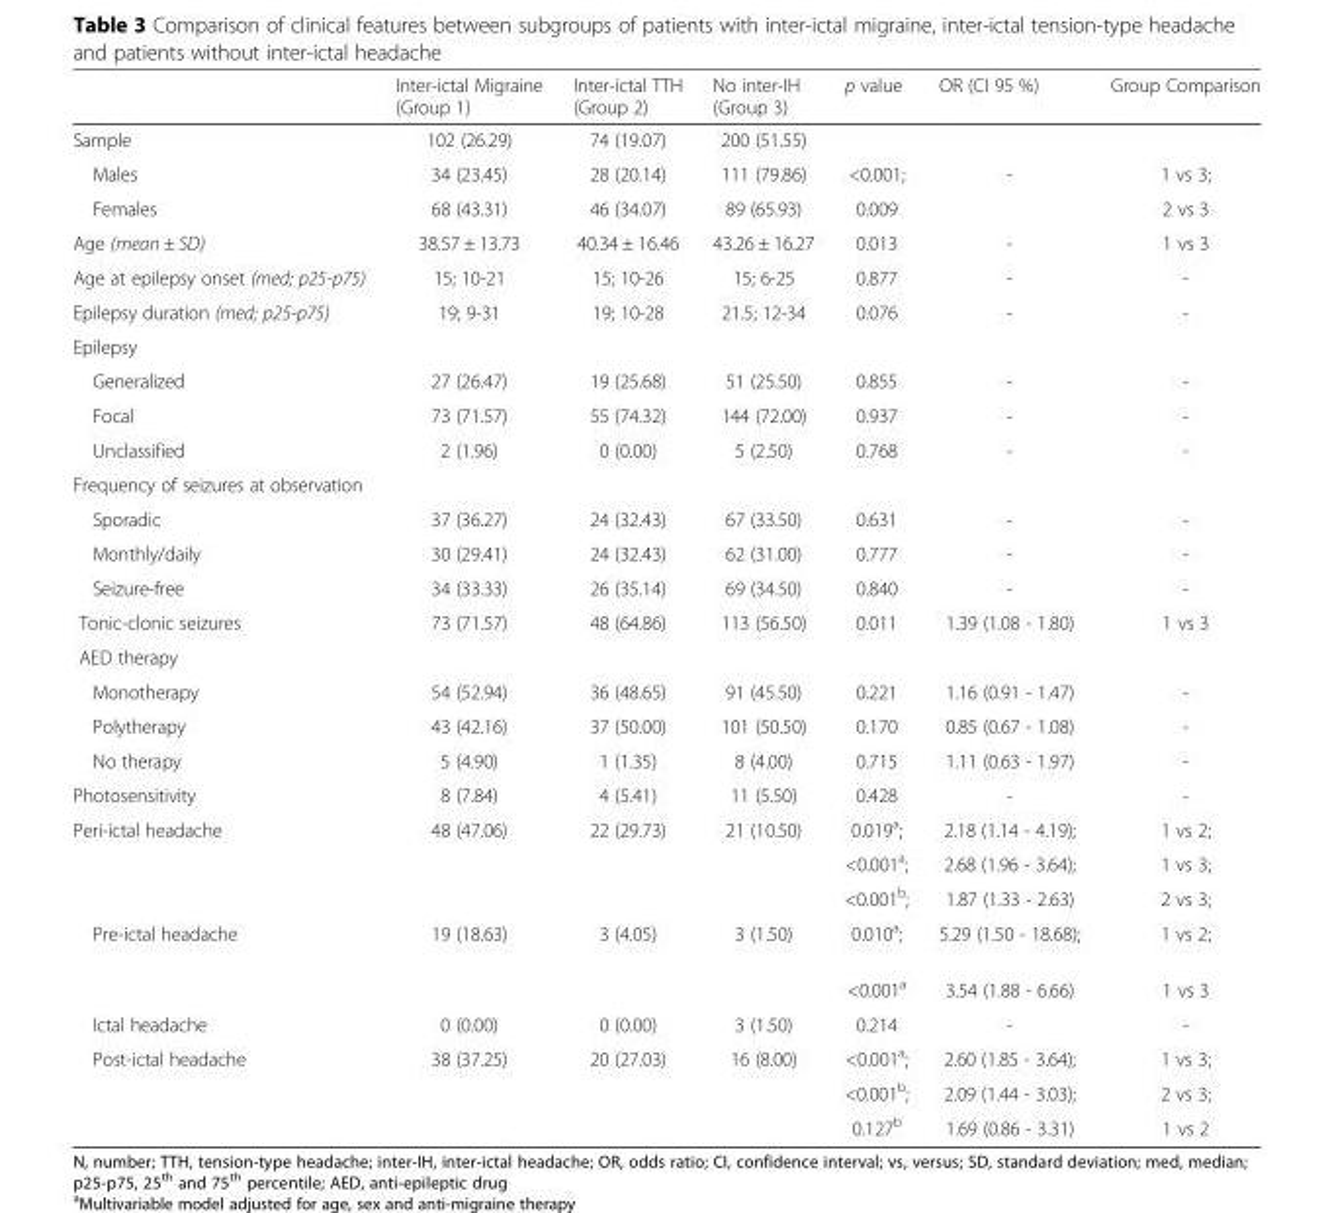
<table><thead><tr><td></td><td>Inter-ictal Migraine (Group 1)</td><td>Inter-ictal TTH (Group 2)</td><td>No inter-IH (Group 3)</td><td>p value</td><td>OR (CI 95 %)</td><td>Group Comparison</td></tr></thead><tbody><tr><td>Sample</td><td>102 (26.29)</td><td>74 (19.07)</td><td>200 (51.55)</td><td></td><td></td><td></td></tr><tr><td>Males</td><td>34 (23.45)</td><td>28 (20.14)</td><td>111 (79.86)</td><td>&lt;0.001;</td><td>-</td><td>1 vs 3;</td></tr><tr><td>Females</td><td>68 (43.31)</td><td>46 (34.07)</td><td>89 (65.93)</td><td>0.009</td><td></td><td>2 vs 3</td></tr><tr><td>Age (mean ± SD)</td><td>38.57 ± 13.73</td><td>40.34 ± 16.46</td><td>43.26 ± 16.27</td><td>0.013</td><td>-</td><td>1 vs 3</td></tr><tr><td>Age at epilepsy onset (med; p25-p75)</td><td>15; 10-21</td><td>15; 10-26</td><td>15; 6-25</td><td>0.877</td><td>-</td><td>-</td></tr><tr><td>Epilepsy duration (med; p25-p75)</td><td>19; 9-31</td><td>19; 10-28</td><td>21.5; 12-34</td><td>0.076</td><td>-</td><td>-</td></tr><tr><td colspan="7">Epilepsy</td></tr><tr><td>Generalized</td><td>27 (26.47)</td><td>19 (25.68)</td><td>51 (25.50)</td><td>0.855</td><td>-</td><td>-</td></tr><tr><td>Focal</td><td>73 (71.57)</td><td>55 (74.32)</td><td>144 (72.00)</td><td>0.937</td><td>-</td><td>-</td></tr><tr><td>Unclassified</td><td>2 (1.96)</td><td>0 (0.00)</td><td>5 (2.50)</td><td>0.768</td><td>-</td><td>-</td></tr><tr><td colspan="7">Frequency of seizures at observation</td></tr><tr><td>Sporadic</td><td>37 (36.27)</td><td>24 (32.43)</td><td>67 (33.50)</td><td>0.631</td><td>-</td><td>-</td></tr><tr><td>Monthly/daily</td><td>30 (29.41)</td><td>24 (32.43)</td><td>62 (31.00)</td><td>0.777</td><td>-</td><td>-</td></tr><tr><td>Seizure-free</td><td>34 (33.33)</td><td>26 (35.14)</td><td>69 (34.50)</td><td>0.840</td><td>-</td><td>-</td></tr><tr><td>Tonic-clonic seizures</td><td>73 (71.57)</td><td>48 (64.86)</td><td>113 (56.50)</td><td>0.011</td><td>1.39 (1.08 - 1.80)</td><td>1 vs 3</td></tr><tr><td colspan="7">AED therapy</td></tr><tr><td>Monotherapy</td><td>54 (52.94)</td><td>36 (48.65)</td><td>91 (45.50)</td><td>0.221</td><td>1.16 (0.91 - 1.47)</td><td>-</td></tr><tr><td>Polytherapy</td><td>43 (42.16)</td><td>37 (50.00)</td><td>101 (50.50)</td><td>0.170</td><td>0.85 (0.67 - 1.08)</td><td>-</td></tr><tr><td>No therapy</td><td>5 (4.90)</td><td>1 (1.35)</td><td>8 (4.00)</td><td>0.715</td><td>1.11 (0.63 - 1.97)</td><td>-</td></tr><tr><td>Photosensitivity</td><td>8 (7.84)</td><td>4 (5.41)</td><td>11 (5.50)</td><td>0.428</td><td>-</td><td>-</td></tr><tr><td rowspan="3">Peri-ictal headache</td><td rowspan="3">48 (47.06)</td><td rowspan="3">22 (29.73)</td><td rowspan="3">21 (10.50)</td><td>0.019<sup>a</sup>;</td><td>2.18 (1.14 - 4.19);</td><td>1 vs 2;</td></tr><tr><td>&lt;0.001<sup>a</sup>;</td><td>2.68 (1.96 - 3.64);</td><td>1 vs 3;</td></tr><tr><td>&lt;0.001<sup>b</sup>;</td><td>1.87 (1.33 - 2.63)</td><td>2 vs 3;</td></tr><tr><td rowspan="2">Pre-ictal headache</td><td rowspan="2">19 (18.63)</td><td rowspan="2">3 (4.05)</td><td rowspan="2">3 (1.50)</td><td>0.010<sup>a</sup>;</td><td>5.29 (1.50 - 18.68);</td><td>1 vs 2;</td></tr><tr><td>&lt;0.001<sup>a</sup></td><td>3.54 (1.88 - 6.66)</td><td>1 vs 3</td></tr><tr><td>Ictal headache</td><td>0 (0.00)</td><td>0 (0.00)</td><td>3 (1.50)</td><td>0.214</td><td>-</td><td>-</td></tr><tr><td rowspan="3">Post-ictal headache</td><td rowspan="3">38 (37.25)</td><td rowspan="3">20 (27.03)</td><td rowspan="3">16 (8.00)</td><td>&lt;0.001<sup>a</sup>;</td><td>2.60 (1.85 - 3.64);</td><td>1 vs 3;</td></tr><tr><td>&lt;0.001<sup>b</sup>;</td><td>2.09 (1.44 - 3.03);</td><td>2 vs 3;</td></tr><tr><td>0.127<sup>b</sup></td><td>1.69 (0.86 - 3.31)</td><td>1 vs 2</td></tr></tbody></table>